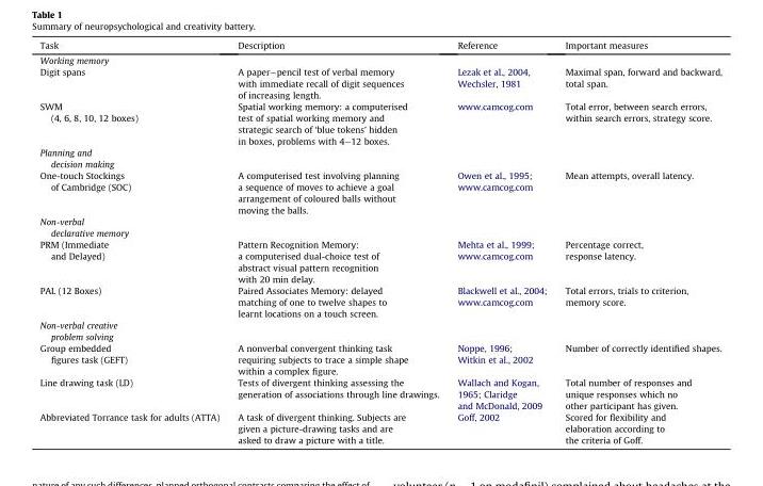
<table><thead><tr><td>Task</td><td>Description</td><td>Reference</td><td>Important measures</td></tr></thead><tbody><tr><td colspan="4">Working memory</td></tr><tr><td>Digit spans</td><td>A paper–pencil test of verbal memory with immediate recall of digit sequences of increasing length.</td><td>Lezak et al., 2004, Wechsler, 1981</td><td>Maximal span, forward and backward, total span.</td></tr><tr><td>SWM (4, 6, 8, 10, 12 boxes)</td><td>Spatial working memory: a computerised test of spatial working memory and strategic search of ‘blue tokens’ hidden in boxes, problems with 4–12 boxes.</td><td>www.camcog.com</td><td>Total error, between search errors, within search errors, strategy score.</td></tr><tr><td colspan="4">Planning and decision making</td></tr><tr><td>One-touch Stockings of Cambridge (SOC)</td><td>A computerised test involving planning a sequence of moves to achieve a goal arrangement of coloured balls without moving the balls.</td><td>Owen et al., 1995; www.camcog.com</td><td>Mean attempts, overall latency.</td></tr><tr><td colspan="4">Non-verbal declarative memory</td></tr><tr><td>PRM (Immediate and Delayed)</td><td>Pattern Recognition Memory: a computerised dual-choice test of abstract visual pattern recognition with 20 min delay.</td><td>Mehta et al., 1999; www.camcog.com</td><td>Percentage correct, response latency.</td></tr><tr><td>PAL (12 Boxes)</td><td>Paired Associates Memory: delayed matching of one to twelve shapes to learnt locations on a touch screen.</td><td>Blackwell et al., 2004; www.camcog.com</td><td>Total errors, trials to criterion, memory score.</td></tr><tr><td colspan="4">Non-verbal creative problem solving</td></tr><tr><td>Group embedded figures task (GEFT)</td><td>A nonverbal convergent thinking task requiring subjects to trace a simple shape within a complex figure.</td><td>Noppe, 1996; Witkin et al., 2002</td><td>Number of correctly identified shapes.</td></tr><tr><td>Line drawing task (LD)</td><td>Tests of divergent thinking assessing the generation of associations through line drawings.</td><td>Wallach and Kogan, 1965; Claridge and McDonald, 2009</td><td>Total number of responses and unique responses which no other participant has given.</td></tr><tr><td>Abbreviated Torrance task for adults (ATTA)</td><td>A task of divergent thinking. Subjects are given a picture-drawing tasks and are asked to draw a picture with a title.</td><td>Goff, 2002</td><td>Scored for flexibility and elaboration according to the criteria of Goff.</td></tr></tbody></table>